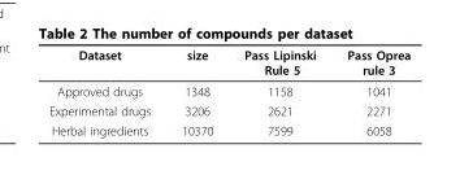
<table><thead><tr><td>Dataset</td><td>size</td><td>Pass Lipinski Rule 5</td><td>Pass Oprea rule 3</td></tr></thead><tbody><tr><td>Approved drugs</td><td>1348</td><td>1158</td><td>1041</td></tr><tr><td>Experimental drugs</td><td>3206</td><td>2621</td><td>2271</td></tr><tr><td>Herbal ingredients</td><td>10370</td><td>7599</td><td>6058</td></tr></tbody></table>